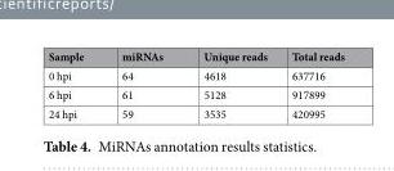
<table><thead><tr><td>Sample</td><td>miRNAs</td><td>Unique reads</td><td>Total reads</td></tr></thead><tbody><tr><td>0 hpi</td><td>64</td><td>4618</td><td>637716</td></tr><tr><td>6 hpi</td><td>61</td><td>5128</td><td>917899</td></tr><tr><td>24 hpi</td><td>59</td><td>3535</td><td>420995</td></tr></tbody></table>